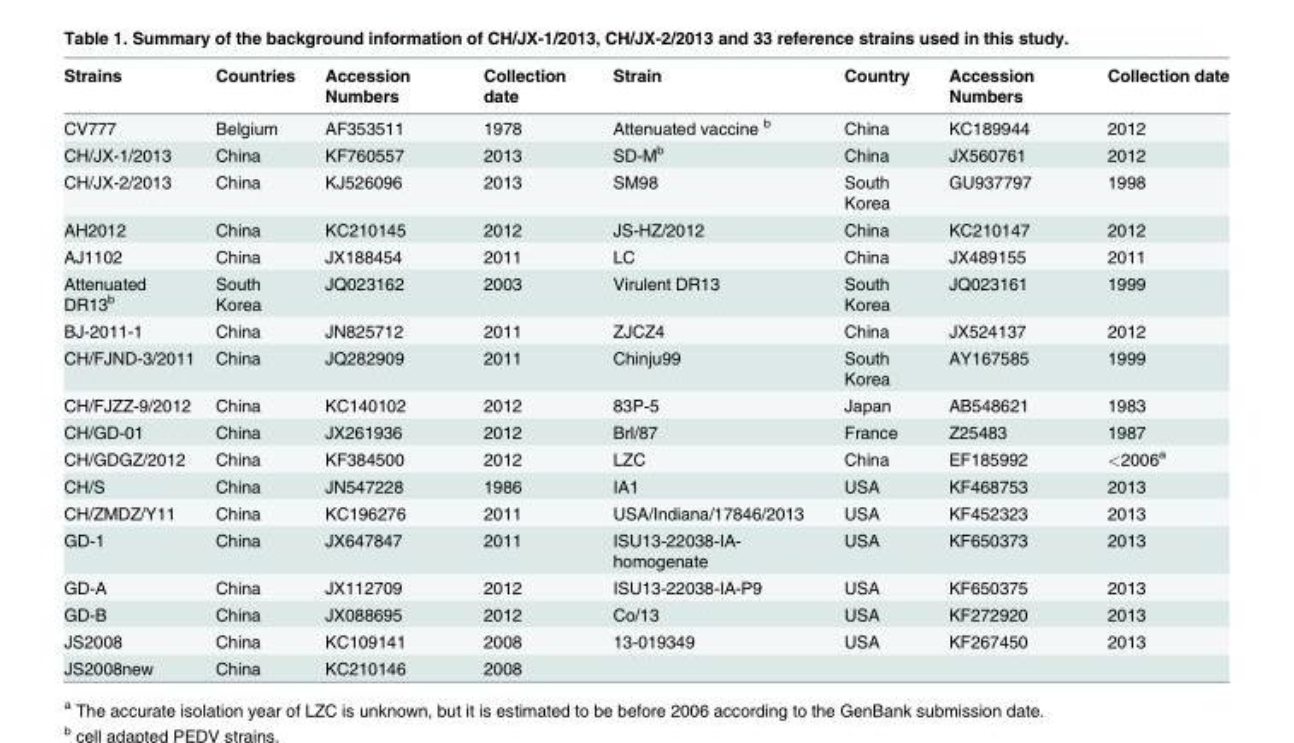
<table><thead><tr><td>Strains</td><td>Countries</td><td>Accession Numbers</td><td>Collection date</td><td>Strain</td><td>Country</td><td>Accession Numbers</td><td>Collection date</td></tr></thead><tbody><tr><td>CV777</td><td>Belgium</td><td>AF353511</td><td>1978</td><td>Attenuated vaccine <sup>b</sup></td><td>China</td><td>KC189944</td><td>2012</td></tr><tr><td>CH/JX-1/2013</td><td>China</td><td>KF760557</td><td>2013</td><td>SD-M<sup>b</sup></td><td>China</td><td>JX560761</td><td>2012</td></tr><tr><td>CH/JX-2/2013</td><td>China</td><td>KJ526096</td><td>2013</td><td>SM98</td><td>South Korea</td><td>GU937797</td><td>1998</td></tr><tr><td>AH2012</td><td>China</td><td>KC210145</td><td>2012</td><td>JS-HZ/2012</td><td>China</td><td>KC210147</td><td>2012</td></tr><tr><td>AJ1102</td><td>China</td><td>JX188454</td><td>2011</td><td>LC</td><td>China</td><td>JX489155</td><td>2011</td></tr><tr><td>Attenuated DR13<sup>b</sup></td><td>South Korea</td><td>JQ023162</td><td>2003</td><td>Virulent DR13</td><td>South Korea</td><td>JQ023161</td><td>1999</td></tr><tr><td>BJ-2011-1</td><td>China</td><td>JN825712</td><td>2011</td><td>ZJCZ4</td><td>China</td><td>JX524137</td><td>2012</td></tr><tr><td>CH/FJND-3/2011</td><td>China</td><td>JQ282909</td><td>2011</td><td>Chinju99</td><td>South Korea</td><td>AY167585</td><td>1999</td></tr><tr><td>CH/FJZZ-9/2012</td><td>China</td><td>KC140102</td><td>2012</td><td>83P-5</td><td>Japan</td><td>AB548621</td><td>1983</td></tr><tr><td>CH/GD-01</td><td>China</td><td>JX261936</td><td>2012</td><td>Brl/87</td><td>France</td><td>Z25483</td><td>1987</td></tr><tr><td>CH/GDGZ/2012</td><td>China</td><td>KF384500</td><td>2012</td><td>LZC</td><td>China</td><td>EF185992</td><td>&lt;2006<sup>a</sup></td></tr><tr><td>CH/S</td><td>China</td><td>JN547228</td><td>1986</td><td>IA1</td><td>USA</td><td>KF468753</td><td>2013</td></tr><tr><td>CH/ZMDZ/Y11</td><td>China</td><td>KC196276</td><td>2011</td><td>USA/Indiana/17846/2013</td><td>USA</td><td>KF452323</td><td>2013</td></tr><tr><td>GD-1</td><td>China</td><td>JX647847</td><td>2011</td><td>ISU13-22038-IA- homogenate</td><td>USA</td><td>KF650373</td><td>2013</td></tr><tr><td>GD-A</td><td>China</td><td>JX112709</td><td>2012</td><td>ISU13-22038-IA-P9</td><td>USA</td><td>KF650375</td><td>2013</td></tr><tr><td>GD-B</td><td>China</td><td>JX088695</td><td>2012</td><td>Co/13</td><td>USA</td><td>KF272920</td><td>2013</td></tr><tr><td>JS2008</td><td>China</td><td>KC109141</td><td>2008</td><td>13-019349</td><td>USA</td><td>KF267450</td><td>2013</td></tr><tr><td>JS2008new</td><td>China</td><td>KC210146</td><td>2008</td><td></td><td></td><td></td><td></td></tr></tbody></table>